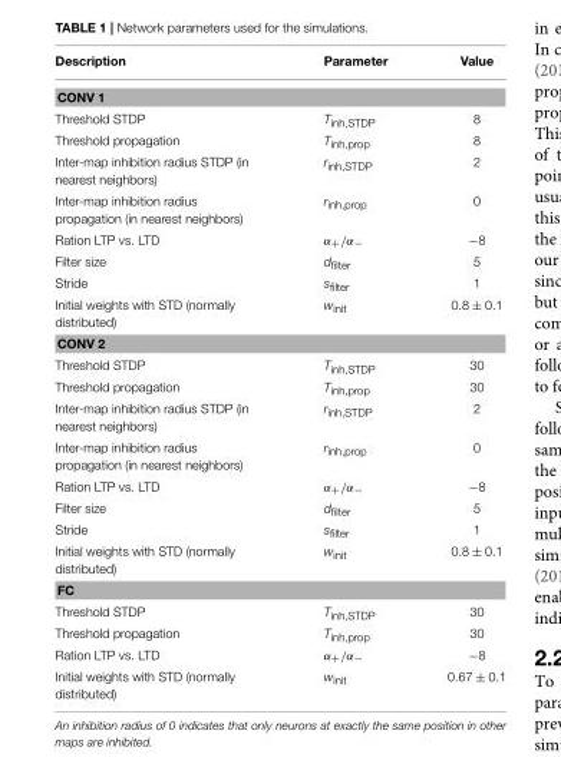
<table><thead><tr><td>Description</td><td>Parameter</td><td>Value</td></tr></thead><tbody><tr><td colspan="3">CONV 1</td></tr><tr><td>Threshold STDP</td><td>T<sub>inh,STDP</sub></td><td>8</td></tr><tr><td>Threshold propagation</td><td>T<sub>inh,prop</sub></td><td>8</td></tr><tr><td>Inter-map inhibition radius STDP (in nearest neighbors)</td><td>r<sub>inh,STDP</sub></td><td>2</td></tr><tr><td>Inter-map inhibition radius propagation (in nearest neighbors)</td><td>r<sub>inh,prop</sub></td><td>0</td></tr><tr><td>Ration LTP vs. LTD</td><td>α<sub>+</sub>/α<sub>−</sub></td><td>−8</td></tr><tr><td>Filter size</td><td>d<sub>filter</sub></td><td>5</td></tr><tr><td>Stride</td><td>s<sub>filter</sub></td><td>1</td></tr><tr><td>Initial weights with STD (normally distributed)</td><td>w<sub>init</sub></td><td>0.8 ± 0.1</td></tr><tr><td colspan="3">CONV 2</td></tr><tr><td>Threshold STDP</td><td>T<sub>inh,STDP</sub></td><td>30</td></tr><tr><td>Threshold propagation</td><td>T<sub>inh,prop</sub></td><td>30</td></tr><tr><td>Inter-map inhibition radius STDP (in nearest neighbors)</td><td>r<sub>inh,STDP</sub></td><td>2</td></tr><tr><td>Inter-map inhibition radius propagation (in nearest neighbors)</td><td>r<sub>inh,prop</sub></td><td>0</td></tr><tr><td>Ration LTP vs. LTD</td><td>α<sub>+</sub>/α<sub>−</sub></td><td>−8</td></tr><tr><td>Filter size</td><td>d<sub>filter</sub></td><td>5</td></tr><tr><td>Stride</td><td>s<sub>filter</sub></td><td>1</td></tr><tr><td>Initial weights with STD (normally distributed)</td><td>w<sub>init</sub></td><td>0.8 ± 0.1</td></tr><tr><td colspan="3">FC</td></tr><tr><td>Threshold STDP</td><td>T<sub>inh,STDP</sub></td><td>30</td></tr><tr><td>Threshold propagation</td><td>T<sub>inh,prop</sub></td><td>30</td></tr><tr><td>Ration LTP vs. LTD</td><td>α<sub>+</sub>/α<sub>−</sub></td><td>−8</td></tr><tr><td>Initial weights with STD (normally distributed)</td><td>w<sub>init</sub></td><td>0.67 ± 0.1</td></tr></tbody></table>